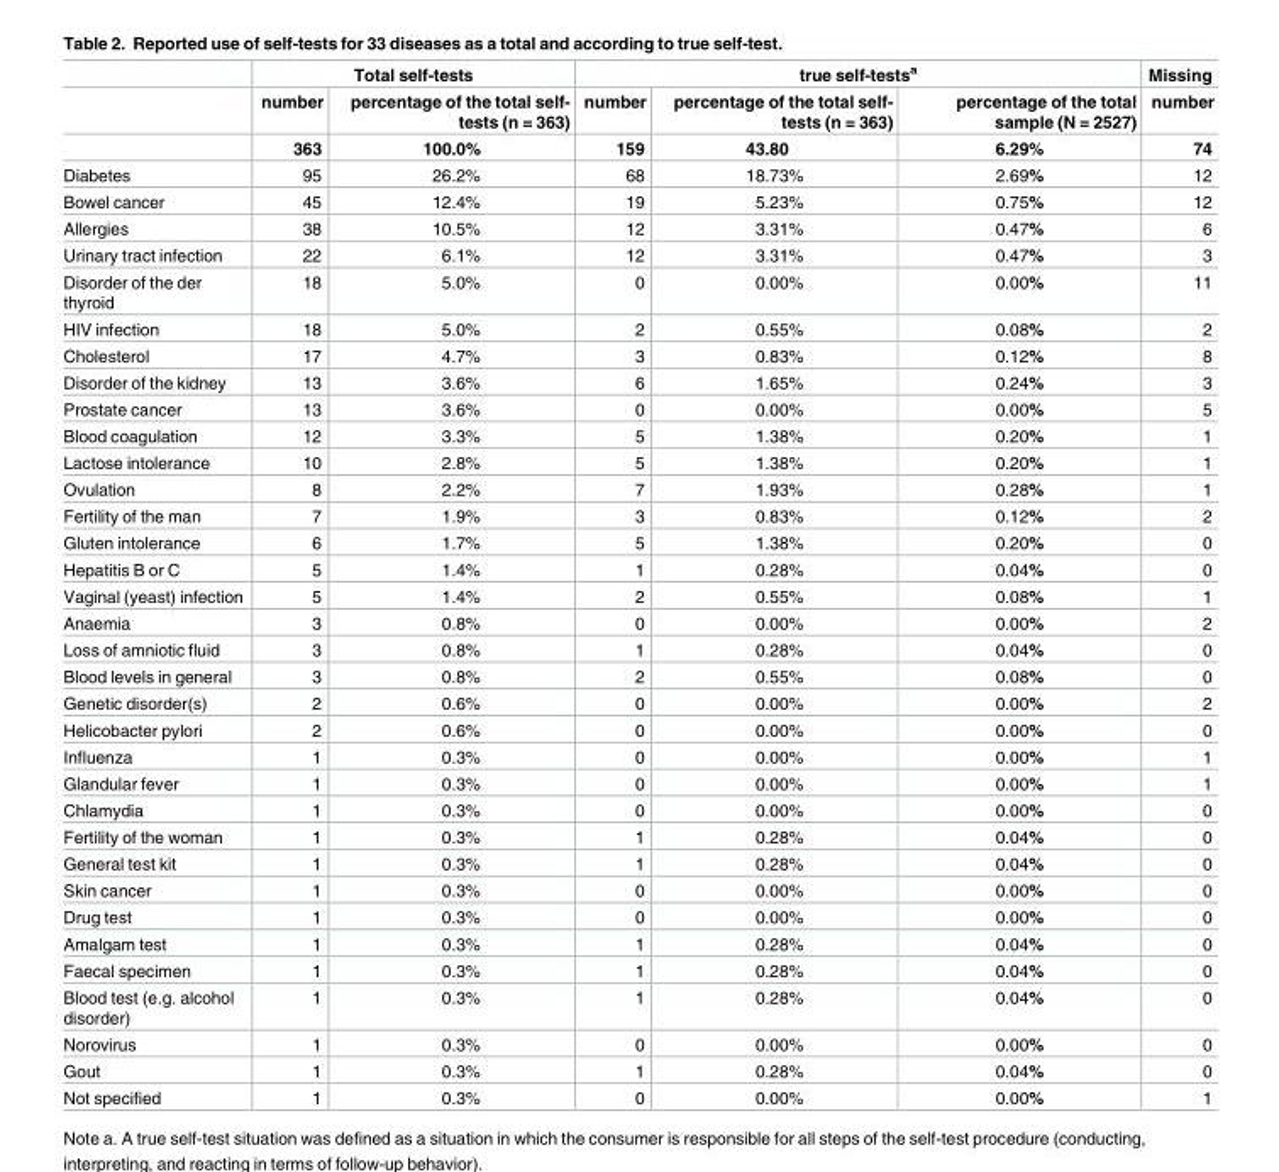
<table><thead><tr><td rowspan="2"></td><td colspan="2">Total self-tests</td><td colspan="3">true self-tests<sup>a</sup></td><td rowspan="2">Missing number</td></tr><tr><td>number</td><td>percentage of the total self- tests (n = 363)</td><td>number</td><td>percentage of the total self- tests (n = 363)</td><td>percentage of the total sample (N = 2527)</td></tr></thead><tbody><tr><td></td><td>363</td><td>100.0%</td><td>159</td><td>43.80</td><td>6.29%</td><td>74</td></tr><tr><td>Diabetes</td><td>95</td><td>26.2%</td><td>68</td><td>18.73%</td><td>2.69%</td><td>12</td></tr><tr><td>Bowel cancer</td><td>45</td><td>12.4%</td><td>19</td><td>5.23%</td><td>0.75%</td><td>12</td></tr><tr><td>Allergies</td><td>38</td><td>10.5%</td><td>12</td><td>3.31%</td><td>0.47%</td><td>6</td></tr><tr><td>Urinary tract infection</td><td>22</td><td>6.1%</td><td>12</td><td>3.31%</td><td>0.47%</td><td>3</td></tr><tr><td>Disorder of the der thyroid</td><td>18</td><td>5.0%</td><td>0</td><td>0.00%</td><td>0.00%</td><td>11</td></tr><tr><td>HIV infection</td><td>18</td><td>5.0%</td><td>2</td><td>0.55%</td><td>0.08%</td><td>2</td></tr><tr><td>Cholesterol</td><td>17</td><td>4.7%</td><td>3</td><td>0.83%</td><td>0.12%</td><td>8</td></tr><tr><td>Disorder of the kidney</td><td>13</td><td>3.6%</td><td>6</td><td>1.65%</td><td>0.24%</td><td>3</td></tr><tr><td>Prostate cancer</td><td>13</td><td>3.6%</td><td>0</td><td>0.00%</td><td>0.00%</td><td>5</td></tr><tr><td>Blood coagulation</td><td>12</td><td>3.3%</td><td>5</td><td>1.38%</td><td>0.20%</td><td>1</td></tr><tr><td>Lactose intolerance</td><td>10</td><td>2.8%</td><td>5</td><td>1.38%</td><td>0.20%</td><td>1</td></tr><tr><td>Ovulation</td><td>8</td><td>2.2%</td><td>7</td><td>1.93%</td><td>0.28%</td><td>1</td></tr><tr><td>Fertility of the man</td><td>7</td><td>1.9%</td><td>3</td><td>0.83%</td><td>0.12%</td><td>2</td></tr><tr><td>Gluten intolerance</td><td>6</td><td>1.7%</td><td>5</td><td>1.38%</td><td>0.20%</td><td>0</td></tr><tr><td>Hepatitis B or C</td><td>5</td><td>1.4%</td><td>1</td><td>0.28%</td><td>0.04%</td><td>0</td></tr><tr><td>Vaginal (yeast) infection</td><td>5</td><td>1.4%</td><td>2</td><td>0.55%</td><td>0.08%</td><td>1</td></tr><tr><td>Anaemia</td><td>3</td><td>0.8%</td><td>0</td><td>0.00%</td><td>0.00%</td><td>2</td></tr><tr><td>Loss of amniotic fluid</td><td>3</td><td>0.8%</td><td>1</td><td>0.28%</td><td>0.04%</td><td>0</td></tr><tr><td>Blood levels in general</td><td>3</td><td>0.8%</td><td>2</td><td>0.55%</td><td>0.08%</td><td>0</td></tr><tr><td>Genetic disorder(s)</td><td>2</td><td>0.6%</td><td>0</td><td>0.00%</td><td>0.00%</td><td>2</td></tr><tr><td>Helicobacter pylori</td><td>2</td><td>0.6%</td><td>0</td><td>0.00%</td><td>0.00%</td><td>0</td></tr><tr><td>Influenza</td><td>1</td><td>0.3%</td><td>0</td><td>0.00%</td><td>0.00%</td><td>1</td></tr><tr><td>Glandular fever</td><td>1</td><td>0.3%</td><td>0</td><td>0.00%</td><td>0.00%</td><td>1</td></tr><tr><td>Chlamydia</td><td>1</td><td>0.3%</td><td>0</td><td>0.00%</td><td>0.00%</td><td>0</td></tr><tr><td>Fertility of the woman</td><td>1</td><td>0.3%</td><td>1</td><td>0.28%</td><td>0.04%</td><td>0</td></tr><tr><td>General test kit</td><td>1</td><td>0.3%</td><td>1</td><td>0.28%</td><td>0.04%</td><td>0</td></tr><tr><td>Skin cancer</td><td>1</td><td>0.3%</td><td>0</td><td>0.00%</td><td>0.00%</td><td>0</td></tr><tr><td>Drug test</td><td>1</td><td>0.3%</td><td>0</td><td>0.00%</td><td>0.00%</td><td>0</td></tr><tr><td>Amalgam test</td><td>1</td><td>0.3%</td><td>1</td><td>0.28%</td><td>0.04%</td><td>0</td></tr><tr><td>Faecal specimen</td><td>1</td><td>0.3%</td><td>1</td><td>0.28%</td><td>0.04%</td><td>0</td></tr><tr><td>Blood test (e.g. alcohol disorder)</td><td>1</td><td>0.3%</td><td>1</td><td>0.28%</td><td>0.04%</td><td>0</td></tr><tr><td>Norovirus</td><td>1</td><td>0.3%</td><td>0</td><td>0.00%</td><td>0.00%</td><td>0</td></tr><tr><td>Gout</td><td>1</td><td>0.3%</td><td>1</td><td>0.28%</td><td>0.04%</td><td>0</td></tr><tr><td>Not specified</td><td>1</td><td>0.3%</td><td>0</td><td>0.00%</td><td>0.00%</td><td>1</td></tr></tbody></table>